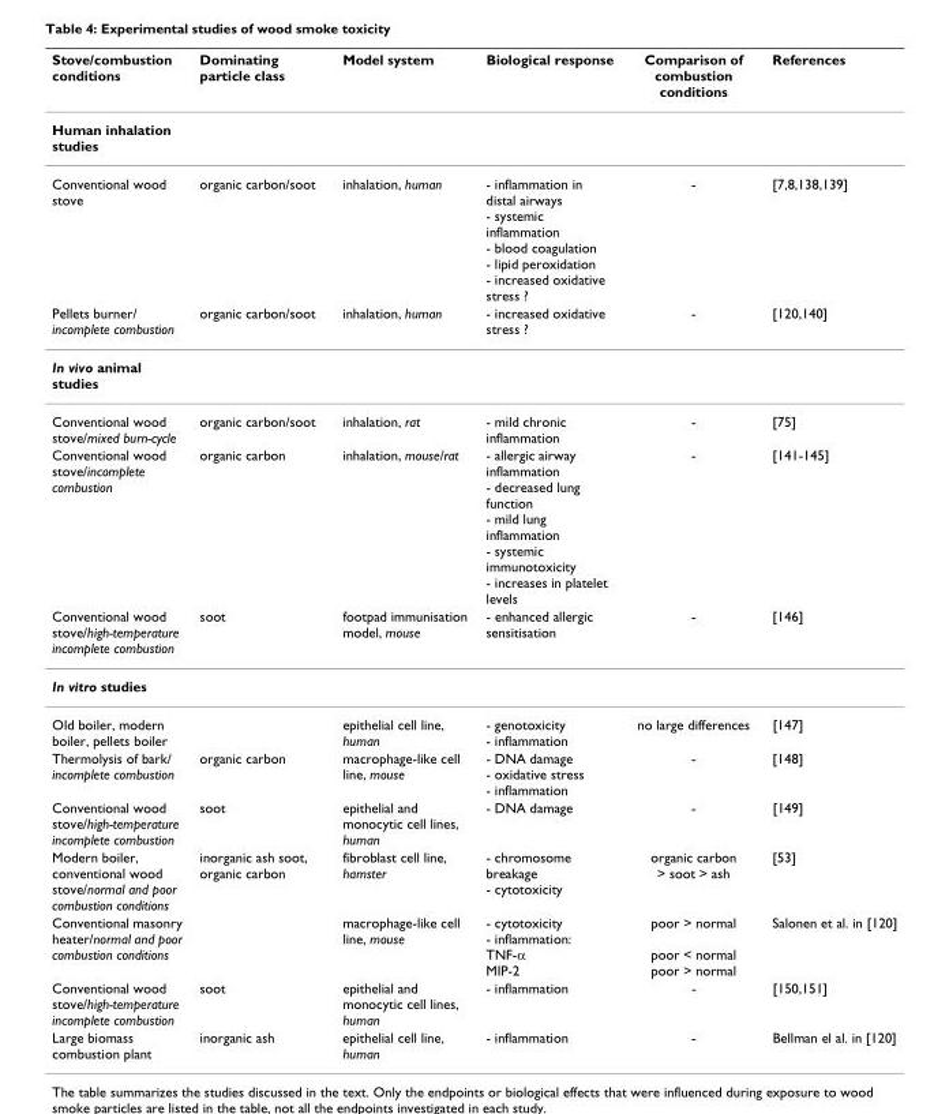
<table><thead><tr><td>Stove/combustion conditions</td><td>Dominating particle class</td><td>Model system</td><td>Biological response</td><td>Comparison of combustion conditions</td><td>References</td></tr></thead><tbody><tr><td colspan="6">Human inhalation studies</td></tr><tr><td>Conventional wood stove</td><td>organic carbon/soot</td><td>inhalation, human</td><td>- inflammation in distal airways - systemic inflammation - blood coagulation - lipid peroxidation - increased oxidative stress ?</td><td>-</td><td>[7,8,138,139]</td></tr><tr><td>Pellets burner/ incomplete combustion</td><td>organic carbon/soot</td><td>inhalation, human</td><td>- increased oxidative stress ?</td><td>-</td><td>[120,140]</td></tr><tr><td colspan="6">In vivo animal studies</td></tr><tr><td>Conventional wood stove/mixed burn-cycle</td><td>organic carbon/soot</td><td>inhalation, rat</td><td>- mild chronic inflammation</td><td>-</td><td>[75]</td></tr><tr><td>Conventional wood stove/incomplete combustion</td><td>organic carbon</td><td>inhalation, mouse/rat</td><td>- allergic airway inflammation - decreased lung function - mild lung inflammation - systemic immunotoxicity - increases in platelet levels</td><td>-</td><td>[141-145]</td></tr><tr><td>Conventional wood stove/high-temperature incomplete combustion</td><td>soot</td><td>footpad immunisation model, mouse</td><td>- enhanced allergic sensitisation</td><td>-</td><td>[146]</td></tr><tr><td colspan="6">In vitro studies</td></tr><tr><td>Old boiler, modern boiler, pellets boiler</td><td></td><td>epithelial cell line, human</td><td>- genotoxicity - inflammation</td><td>no large differences</td><td>[147]</td></tr><tr><td>Thermolysis of bark/ incomplete combustion</td><td>organic carbon</td><td>macrophage-like cell line, mouse</td><td>- DNA damage - oxidative stress - inflammation</td><td>-</td><td>[148]</td></tr><tr><td>Conventional wood stove/high-temperature incomplete combustion</td><td>soot</td><td>epithelial and monocytic cell lines, human</td><td>- DNA damage</td><td>-</td><td>[149]</td></tr><tr><td>Modern boiler, conventional wood stove/normal and poor combustion conditions</td><td>inorganic ash soot, organic carbon</td><td>fibroblast cell line, hamster</td><td>- chromosome breakage - cytotoxicity</td><td>organic carbon &gt; soot &gt; ash</td><td>[53]</td></tr><tr><td>Conventional masonry heater/normal and poor combustion conditions</td><td></td><td>macrophage-like cell line, mouse</td><td>- cytotoxicity - inflammation: TNF-α MIP-2</td><td>poor &gt; normal poor &lt; normal poor &gt; normal</td><td>Salonen et al. in [120]</td></tr><tr><td>Conventional wood stove/high-temperature incomplete combustion</td><td>soot</td><td>epithelial and monocytic cell lines, human</td><td>- inflammation</td><td>-</td><td>[150,151]</td></tr><tr><td>Large biomass combustion plant</td><td>inorganic ash</td><td>epithelial cell line, human</td><td>- inflammation</td><td>-</td><td>Bellman el al. in [120]</td></tr></tbody></table>